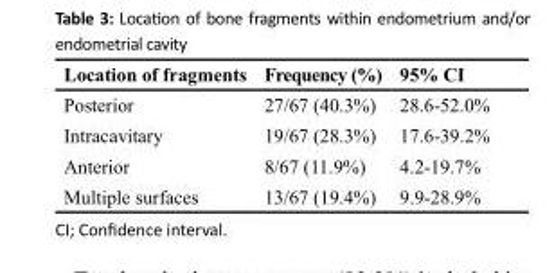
<table><thead><tr><td>Location of fragments</td><td>Frequency (%)</td><td>95% CI</td></tr></thead><tbody><tr><td>Posterior</td><td>27/67 (40.3%)</td><td>28.6-52.0%</td></tr><tr><td>Intracavitary</td><td>19/67 (28.3%)</td><td>17.6-39.2%</td></tr><tr><td>Anterior</td><td>8/67 (11.9%)</td><td>4.2-19.7%</td></tr><tr><td>Multiple surfaces</td><td>13/67 (19.4%)</td><td>9.9-28.9%</td></tr></tbody></table>